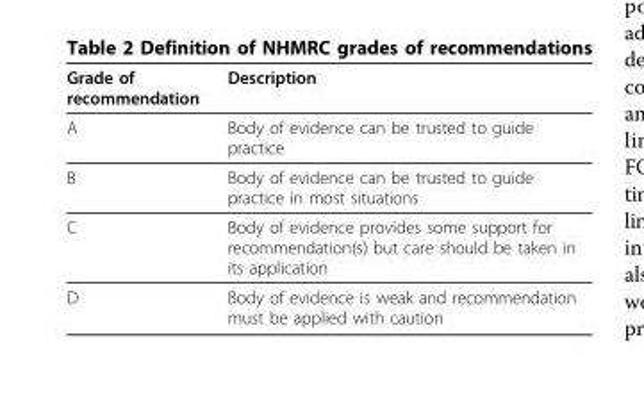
<table><thead><tr><td>Grade of recommendation</td><td>Description</td></tr></thead><tbody><tr><td>A</td><td>Body of evidence can be trusted to guide practice</td></tr><tr><td>B</td><td>Body of evidence can be trusted to guide practice in most situations</td></tr><tr><td>C</td><td>Body of evidence provides some support for recommendation(s) but care should be taken in its application</td></tr><tr><td>D</td><td>Body of evidence is weak and recommendation must be applied with caution</td></tr></tbody></table>